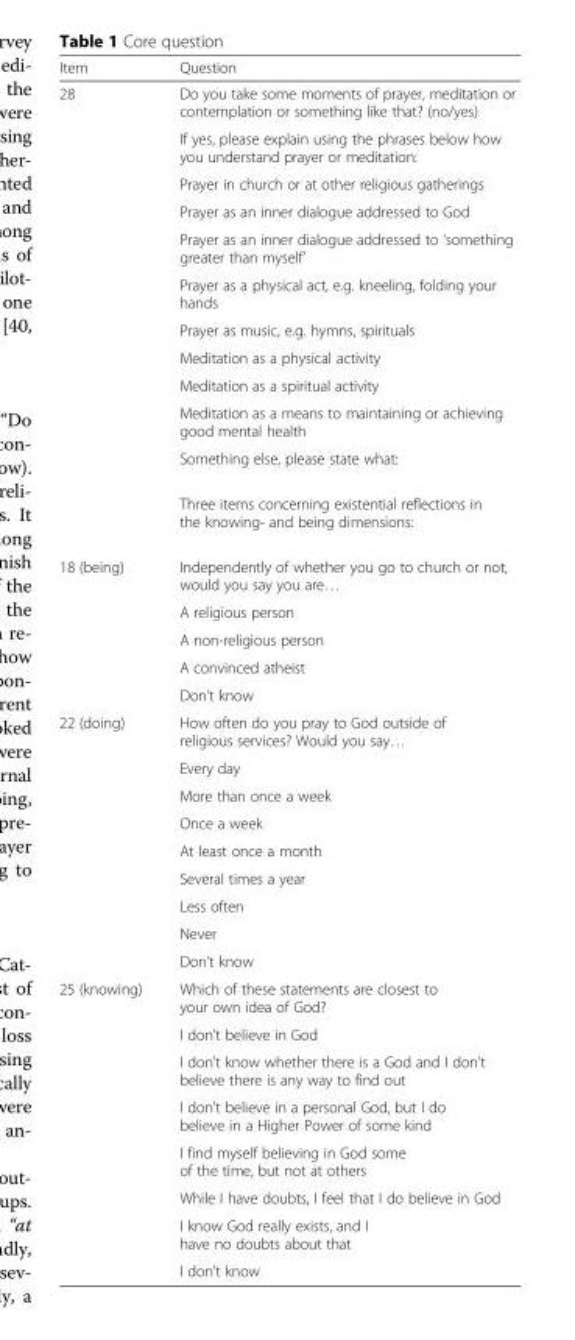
<table><thead><tr><td>Item</td><td>Question</td></tr></thead><tbody><tr><td rowspan="12">28</td><td>Do you take some moments of prayer, meditation or contemplation or something like that? (no/yes)</td></tr><tr><td>If yes, please explain using the phrases below how you understand prayer or meditation:</td></tr><tr><td>Prayer in church or at other religious gatherings</td></tr><tr><td>Prayer as an inner dialogue addressed to God</td></tr><tr><td>Prayer as an inner dialogue addressed to ‘something greater than myself’</td></tr><tr><td>Prayer as a physical act, e.g. kneeling, folding your hands</td></tr><tr><td>Prayer as music, e.g. hymns, spirituals</td></tr><tr><td>Meditation as a physical activity</td></tr><tr><td>Meditation as a spiritual activity</td></tr><tr><td>Meditation as a means to maintaining or achieving good mental health</td></tr><tr><td>Something else, please state what:</td></tr><tr><td>Three items concerning existential reflections in the knowing- and being dimensions:</td></tr><tr><td rowspan="5">18 (being)</td><td>Independently of whether you go to church or not, would you say you are…</td></tr><tr><td>A religious person</td></tr><tr><td>A non-religious person</td></tr><tr><td>A convinced atheist</td></tr><tr><td>Don’t know</td></tr><tr><td rowspan="9">22 (doing)</td><td>How often do you pray to God outside of religious services? Would you say…</td></tr><tr><td>Every day</td></tr><tr><td>More than once a week</td></tr><tr><td>Once a week</td></tr><tr><td>At least once a month</td></tr><tr><td>Several times a year</td></tr><tr><td>Less often</td></tr><tr><td>Never</td></tr><tr><td>Don’t know</td></tr><tr><td rowspan="8">25 (knowing)</td><td>Which of these statements are closest to your own idea of God?</td></tr><tr><td>I don&#x27;t believe in God</td></tr><tr><td>I don&#x27;t know whether there is a God and I don&#x27;t believe there is any way to find out</td></tr><tr><td>I don&#x27;t believe in a personal God, but I do believe in a Higher Power of some kind</td></tr><tr><td>I find myself believing in God some of the time, but not at others</td></tr><tr><td>While I have doubts, I feel that I do believe in God</td></tr><tr><td>I know God really exists, and I have no doubts about that</td></tr><tr><td>I don&#x27;t know</td></tr></tbody></table>